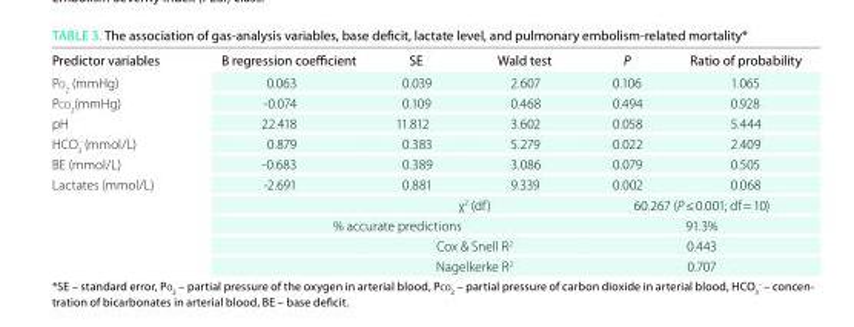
<table><thead><tr><td>Predictor variables</td><td>B regression coefficient</td><td>Se</td><td>Wald test</td><td>P</td><td>ratio of probability</td></tr></thead><tbody><tr><td>Po<sub>2</sub> (mmHg)</td><td>0.063</td><td>0.039</td><td>2.607</td><td>0.106</td><td>1.065</td></tr><tr><td>Pco<sub>2</sub>(mmHg)</td><td>-0.074</td><td>0.109</td><td>0.468</td><td>0.494</td><td>0.928</td></tr><tr><td>pH</td><td>22.418</td><td>11.812</td><td>3.602</td><td>0.058</td><td>5.444</td></tr><tr><td>HCO<sub>3</sub> <sup>-</sup>(mmol/L)</td><td>0.879</td><td>0.383</td><td>5.279</td><td>0.022</td><td>2.409</td></tr><tr><td>BE (mmol/L)</td><td>-0.683</td><td>0.389</td><td>3.086</td><td>0.079</td><td>0.505</td></tr><tr><td rowspan="5">Lactates (mmol/L)</td><td>-2.691</td><td>0.881</td><td>9.339</td><td>0.002</td><td>0.068</td></tr><tr><td></td><td colspan="2">χ2 (df)</td><td colspan="2">60.267 (P ≤ 0.001; df = 10)</td></tr><tr><td colspan="3">% accurate predictions</td><td colspan="2">91.3%</td></tr><tr><td></td><td colspan="2">Cox &amp; Snell R<sup>2</sup></td><td colspan="2">0.443</td></tr><tr><td></td><td colspan="2">Nagelkerke R<sup>2</sup></td><td colspan="2">0.707</td></tr></tbody></table>